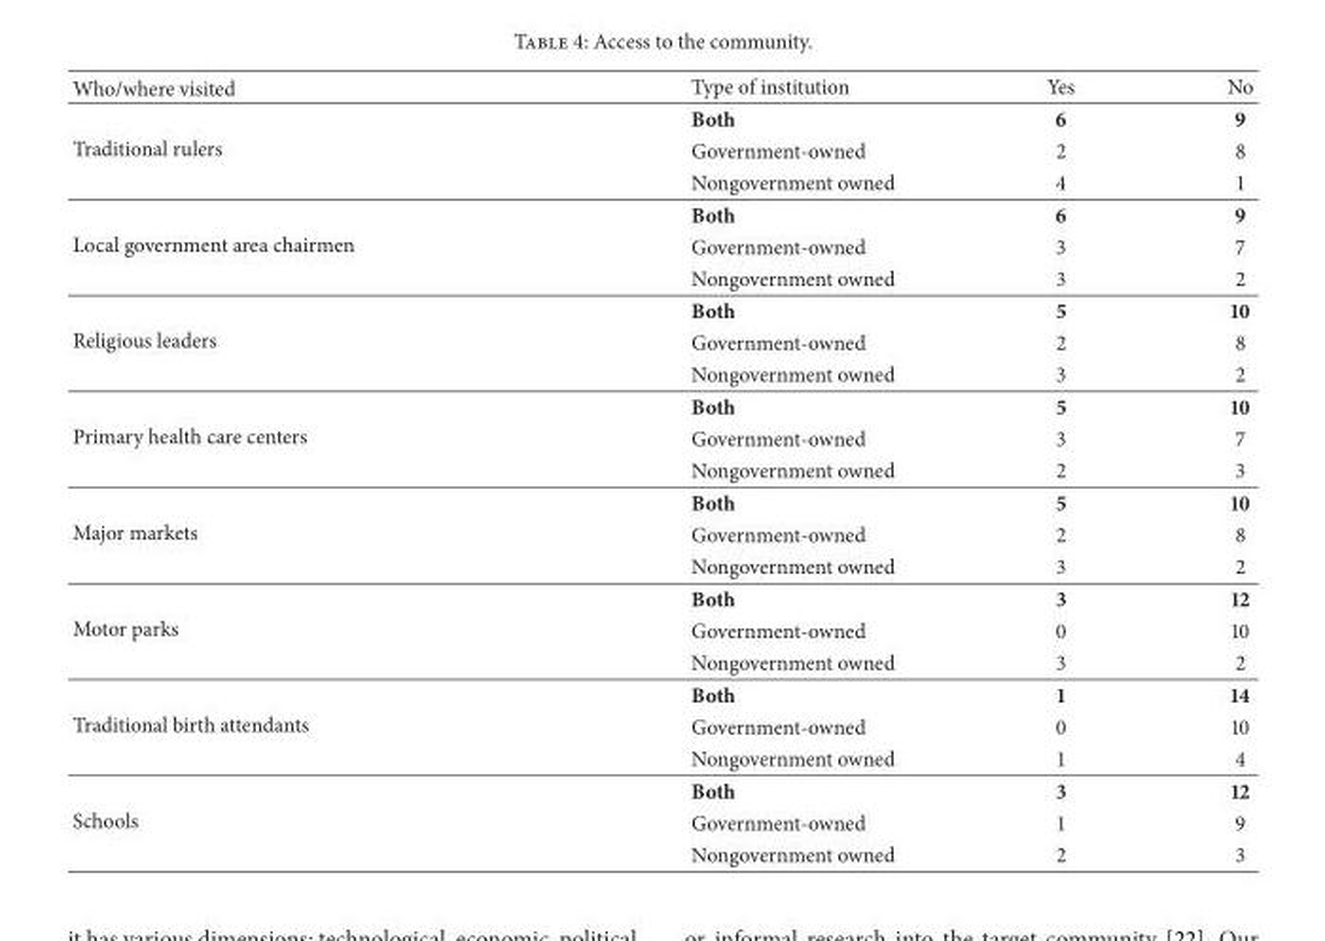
<table><thead><tr><td>Who/where visited</td><td>Type of institution</td><td>Yes</td><td>No</td></tr></thead><tbody><tr><td rowspan="3">Traditional rulers</td><td>Both</td><td>6</td><td>9</td></tr><tr><td>Government-owned</td><td>2</td><td>8</td></tr><tr><td>Nongovernment owned</td><td>4</td><td>1</td></tr><tr><td rowspan="3">Local government area chairmen</td><td>Both</td><td>6</td><td>9</td></tr><tr><td>Government-owned</td><td>3</td><td>7</td></tr><tr><td>Nongovernment owned</td><td>3</td><td>2</td></tr><tr><td rowspan="3">Religious leaders</td><td>Both</td><td>5</td><td>10</td></tr><tr><td>Government-owned</td><td>2</td><td>8</td></tr><tr><td>Nongovernment owned</td><td>3</td><td>2</td></tr><tr><td rowspan="3">Primary health care centers</td><td>Both</td><td>5</td><td>10</td></tr><tr><td>Government-owned</td><td>3</td><td>7</td></tr><tr><td>Nongovernment owned</td><td>2</td><td>3</td></tr><tr><td rowspan="3">Major markets</td><td>Both</td><td>5</td><td>10</td></tr><tr><td>Government-owned</td><td>2</td><td>8</td></tr><tr><td>Nongovernment owned</td><td>3</td><td>2</td></tr><tr><td rowspan="3">Motor parks</td><td>Both</td><td>3</td><td>12</td></tr><tr><td>Government-owned</td><td>0</td><td>10</td></tr><tr><td>Nongovernment owned</td><td>3</td><td>2</td></tr><tr><td rowspan="3">Traditional birth attendants</td><td>Both</td><td>1</td><td>14</td></tr><tr><td>Government-owned</td><td>0</td><td>10</td></tr><tr><td>Nongovernment owned</td><td>1</td><td>4</td></tr><tr><td rowspan="3">Schools</td><td>Both</td><td>3</td><td>12</td></tr><tr><td>Government-owned</td><td>1</td><td>9</td></tr><tr><td>Nongovernment owned</td><td>2</td><td>3</td></tr></tbody></table>